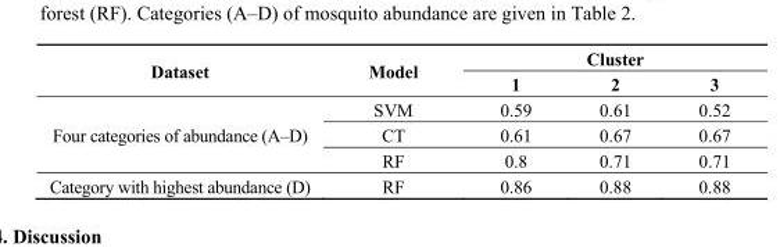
<table><thead><tr><td rowspan="2">Dataset</td><td rowspan="2">Model</td><td rowspan="2">1</td><td rowspan="2">Cluster 2</td><td rowspan="2">3</td></tr><tr></tr></thead><tbody><tr><td rowspan="3">Four categories of abundance (A–D)</td><td>SVM</td><td>0.59</td><td>0.61</td><td>0.52</td></tr><tr><td>CT</td><td>0.61</td><td>0.67</td><td>0.67</td></tr><tr><td>RF</td><td>0.8</td><td>0.71</td><td>0.71</td></tr><tr><td>Category with highest abundance (D)</td><td>RF</td><td>0.86</td><td>0.88</td><td>0.88</td></tr></tbody></table>